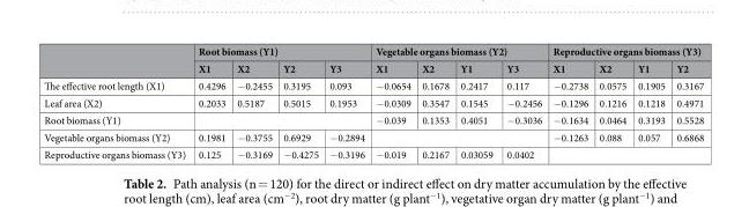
<table><thead><tr><td rowspan="2"></td><td colspan="4">Root biomass (Y1)</td><td colspan="4">Vegetable organs biomass (Y2)</td><td colspan="4">Reproductive organs biomass (Y3)</td></tr><tr><td>X1</td><td>X2</td><td>Y2</td><td>Y3</td><td>X1</td><td>X2</td><td>Y1</td><td>Y3</td><td>X1</td><td>X2</td><td>Y1</td><td>Y2</td></tr></thead><tbody><tr><td>The effective root length (X1)</td><td>0.4296</td><td>−0.2455</td><td>0.3195</td><td>0.093</td><td>−0.0654</td><td>0.1678</td><td>0.2417</td><td>0.117</td><td>−0.2738</td><td>0.0575</td><td>0.1905</td><td>0.3167</td></tr><tr><td>Leaf area (X2)</td><td>0.2033</td><td>0.5187</td><td>0.5015</td><td>0.1953</td><td>−0.0309</td><td>0.3547</td><td>0.1545</td><td>−0.2456</td><td>−0.1296</td><td>0.1216</td><td>0.1218</td><td>0.4971</td></tr><tr><td>Root biomass (Y1)</td><td colspan="4"></td><td>−0.039</td><td>0.1353</td><td>0.4051</td><td>−0.3036</td><td>−0.1634</td><td>0.0464</td><td>0.3193</td><td>0.5528</td></tr><tr><td>Vegetable organs biomass (Y2)</td><td>0.1981</td><td>−0.3755</td><td>0.6929</td><td>−0.2894</td><td colspan="4"></td><td>−0.1263</td><td>0.088</td><td>0.057</td><td>0.6868</td></tr><tr><td>Reproductive organs biomass (Y3)</td><td>0.125</td><td>−0.3169</td><td>−0.4275</td><td>−0.3196</td><td>−0.019</td><td>0.2167</td><td>0.03059</td><td>0.0402</td><td colspan="4"></td></tr></tbody></table>